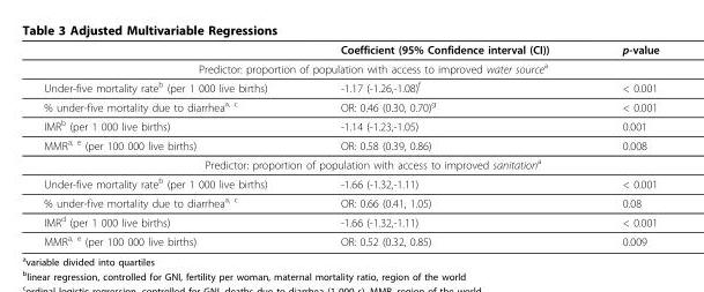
<table><thead><tr><td></td><td>Coefficient (95% Confidence interval (CI))</td><td>p-value</td></tr></thead><tbody><tr><td colspan="3">Predictor: proportion of population with access to improved water sourcea</td></tr><tr><td>Under-five mortality rateb (per 1 000 live births)</td><td>-1.17 (-1.26,-1.08)f</td><td>&lt; 0.001</td></tr><tr><td>% under-five mortality due to diarrheaa, c</td><td>OR: 0.46 (0.30, 0.70)g</td><td>&lt; 0.001</td></tr><tr><td>IMRb (per 1 000 live births)</td><td>-1.14 (-1.23,-1.05)</td><td>0.001</td></tr><tr><td>MMRa, e (per 100 000 live births)</td><td>OR: 0.58 (0.39, 0.86)</td><td>0.008</td></tr><tr><td colspan="3">Predictor: proportion of population with access to improved sanitationa</td></tr><tr><td>Under-five mortality rateb (per 1 000 live births)</td><td>-1.66 (-1.32,-1.11)</td><td>&lt; 0.001</td></tr><tr><td>% under-five mortality due to diarrheaa, c</td><td>OR: 0.66 (0.41, 1.05)</td><td>0.08</td></tr><tr><td>IMRd (per 1 000 live births)</td><td>-1.66 (-1.32,-1.11)</td><td>&lt; 0.001</td></tr><tr><td>MMRa, e (per 100 000 live births)</td><td>OR: 0.52 (0.32, 0.85)</td><td>0.009</td></tr></tbody></table>